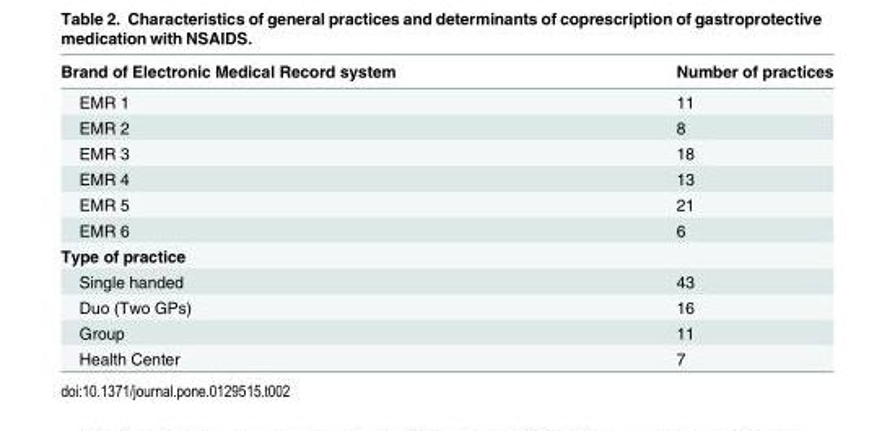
<table><thead><tr><td>Brand of Electronic Medical Record system</td><td>Number of practices</td></tr></thead><tbody><tr><td>EMR 1</td><td>11</td></tr><tr><td>EMR 2</td><td>8</td></tr><tr><td>EMR 3</td><td>18</td></tr><tr><td>EMR 4</td><td>13</td></tr><tr><td>EMR 5</td><td>21</td></tr><tr><td>EMR 6</td><td>6</td></tr><tr><td colspan="2">Type of practice</td></tr><tr><td>Single handed</td><td>43</td></tr><tr><td>Duo (Two GPs)</td><td>16</td></tr><tr><td>Group</td><td>11</td></tr><tr><td>Health Center</td><td>7</td></tr></tbody></table>